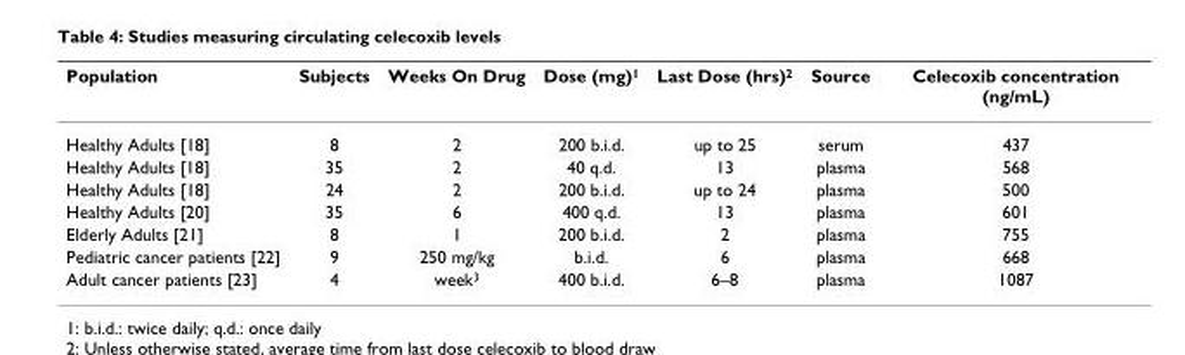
<table><thead><tr><td>Population</td><td>Subjects</td><td>Weeks On Drug</td><td>Dose (mg)<sup>1</sup></td><td>Last Dose (hrs)<sup>2</sup></td><td>Source</td><td>Celecoxib concentration (ng/mL)</td></tr></thead><tbody><tr><td>Healthy Adults [18]</td><td>8</td><td>2</td><td>200 b.i.d.</td><td>up to 25</td><td>serum</td><td>437</td></tr><tr><td>Healthy Adults [18]</td><td>35</td><td>2</td><td>40 q.d.</td><td>13</td><td>plasma</td><td>568</td></tr><tr><td>Healthy Adults [18]</td><td>24</td><td>2</td><td>200 b.i.d.</td><td>up to 24</td><td>plasma</td><td>500</td></tr><tr><td>Healthy Adults [20]</td><td>35</td><td>6</td><td>400 q.d.</td><td>13</td><td>plasma</td><td>601</td></tr><tr><td>Elderly Adults [21]</td><td>8</td><td>1</td><td>200 b.i.d.</td><td>2</td><td>plasma</td><td>755</td></tr><tr><td>Pediatric cancer patients [22]</td><td>9</td><td>250 mg/kg</td><td>b.i.d.</td><td>6</td><td>plasma</td><td>668</td></tr><tr><td>Adult cancer patients [23]</td><td>4</td><td>week<sup>3</sup></td><td>400 b.i.d.</td><td>6–8</td><td>plasma</td><td>1087</td></tr></tbody></table>